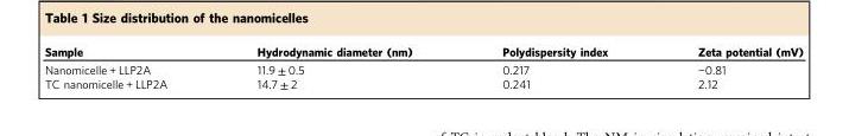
<table><thead><tr><td>Sample</td><td>Hydrodynamic diameter (nm)</td><td>Polydispersity index</td><td>Zeta potential (mV)</td></tr></thead><tbody><tr><td>Nanomicelle + LLP2A</td><td>11.9 ± 0.5</td><td>0.217</td><td>−0.81</td></tr><tr><td>TC nanomicelle + LLP2A</td><td>14.7 ± 2</td><td>0.241</td><td>2.12</td></tr></tbody></table>